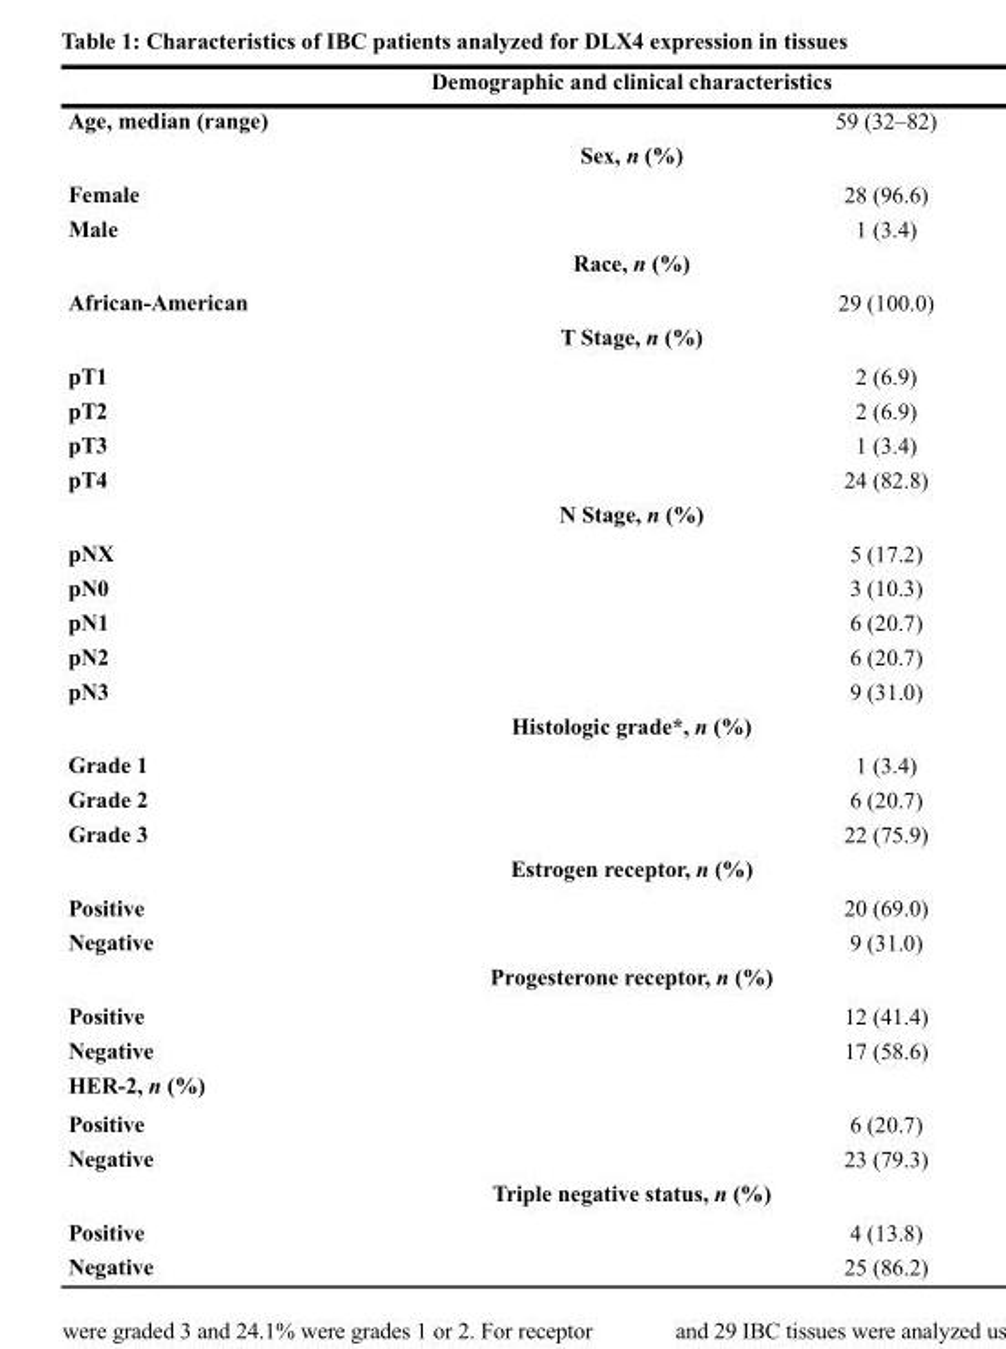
<table><thead><tr><td colspan="2">demographic and clinical characteristics</td></tr><tr><td>Age, median (range)</td><td>59 (32–82)</td></tr></thead><tbody><tr><td colspan="2">sex, n (%)</td></tr><tr><td>Female</td><td>28 (96.6)</td></tr><tr><td>Male</td><td>1 (3.4)</td></tr><tr><td colspan="2">race, n (%)</td></tr><tr><td>African-American</td><td>29 (100.0)</td></tr><tr><td colspan="2">t stage, n (%)</td></tr><tr><td>pt1</td><td>2 (6.9)</td></tr><tr><td>pt2</td><td>2 (6.9)</td></tr><tr><td>pt3</td><td>1 (3.4)</td></tr><tr><td>pt4</td><td>24 (82.8)</td></tr><tr><td colspan="2">n stage, n (%)</td></tr><tr><td>pnX</td><td>5 (17.2)</td></tr><tr><td>pn0</td><td>3 (10.3)</td></tr><tr><td>pn1</td><td>6 (20.7)</td></tr><tr><td>pn2</td><td>6 (20.7)</td></tr><tr><td>pn3</td><td>9 (31.0)</td></tr><tr><td colspan="2">Histologic grade*, n (%)</td></tr><tr><td>Grade 1</td><td>1 (3.4)</td></tr><tr><td>Grade 2</td><td>6 (20.7)</td></tr><tr><td>Grade 3</td><td>22 (75.9)</td></tr><tr><td colspan="2">estrogen receptor, n (%)</td></tr><tr><td>Positive</td><td>20 (69.0)</td></tr><tr><td>negative</td><td>9 (31.0)</td></tr><tr><td colspan="2">Progesterone receptor, n (%)</td></tr><tr><td>Positive</td><td>12 (41.4)</td></tr><tr><td>negative</td><td>17 (58.6)</td></tr><tr><td colspan="2">Her-2, n (%)</td></tr><tr><td>Positive</td><td>6 (20.7)</td></tr><tr><td>negative</td><td>23 (79.3)</td></tr><tr><td colspan="2">triple negative status, n (%)</td></tr><tr><td>Positive</td><td>4 (13.8)</td></tr><tr><td>negative</td><td>25 (86.2)</td></tr></tbody></table>